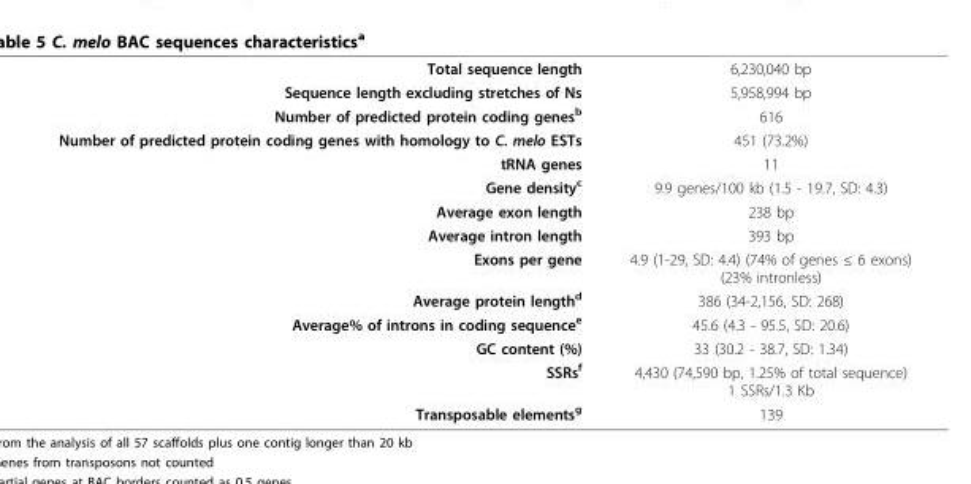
<table><tbody><tr><td>Total sequence length</td><td>6,230,040 bp</td></tr><tr><td>Sequence length excluding stretches of Ns</td><td>5,958,994 bp</td></tr><tr><td>Number of predicted protein coding genes<sup>b</sup></td><td>616</td></tr><tr><td>Number of predicted protein coding genes with homology to C. melo ESTs</td><td>451 (73.2%)</td></tr><tr><td>tRNA genes</td><td>11</td></tr><tr><td>Gene density<sup>c</sup></td><td>9.9 genes/100 kb (1.5 - 19.7, SD: 4.3)</td></tr><tr><td>Average exon length</td><td>238 bp</td></tr><tr><td>Average intron length</td><td>393 bp</td></tr><tr><td>Exons per gene</td><td>4.9 (1-29, SD: 4.4) (74% of genes ≤ 6 exons) (23% intronless)</td></tr><tr><td>Average protein length<sup>d</sup></td><td>386 (34-2,156, SD: 268)</td></tr><tr><td>Average% of introns in coding sequence<sup>e</sup></td><td>45.6 (4.3 - 95.5, SD: 20.6)</td></tr><tr><td>GC content (%)</td><td>33 (30.2 - 38.7, SD: 1.34)</td></tr><tr><td>SSRs<sup>f</sup></td><td>4,430 (74,590 bp, 1.25% of total sequence) 1 SSRs/1.3 Kb</td></tr><tr><td>Transposable elements<sup>g</sup></td><td>139</td></tr></tbody></table>